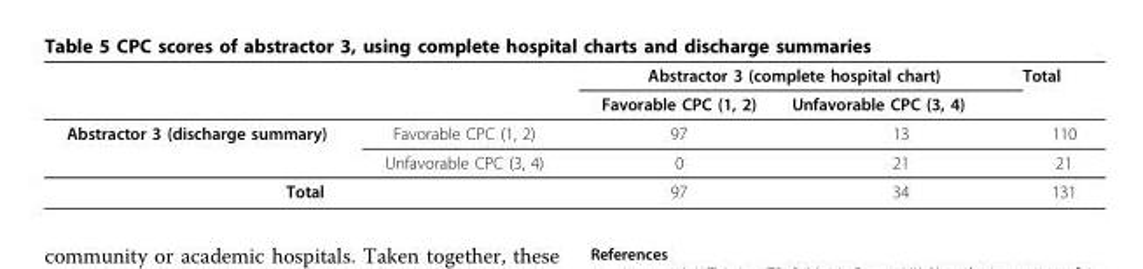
<table><thead><tr><td rowspan="2"></td><td rowspan="2"></td><td colspan="2">Abstractor 3 (complete hospital chart)</td><td rowspan="2">Total</td></tr><tr><td>Favorable CPC (1, 2)</td><td>Unfavorable CPC (3, 4)</td></tr></thead><tbody><tr><td rowspan="2">Abstractor 3 (discharge summary)</td><td>Favorable CPC (1, 2)</td><td>97</td><td>13</td><td>110</td></tr><tr><td>Unfavorable CPC (3, 4)</td><td>0</td><td>21</td><td>21</td></tr><tr><td colspan="2">Total</td><td>97</td><td>34</td><td>131</td></tr></tbody></table>